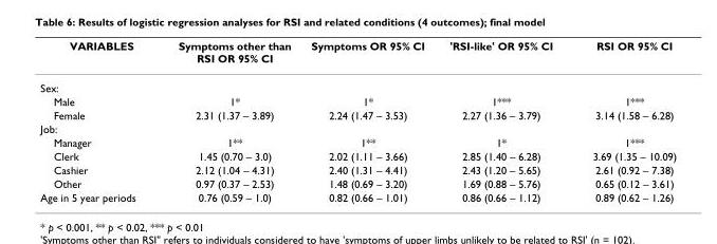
<table><thead><tr><td>VARIABLES</td><td>Symptoms other than RSI OR 95% CI</td><td>Symptoms OR 95% CI</td><td>&#x27;RSI-like&#x27; OR 95% CI</td><td>RSI OR 95% CI</td></tr></thead><tbody><tr><td colspan="5">Sex:</td></tr><tr><td>Male</td><td>1*</td><td>1*</td><td>1***</td><td>1***</td></tr><tr><td>Female</td><td>2.31 (1.37 – 3.89)</td><td>2.24 (1.47 – 3.53)</td><td>2.27 (1.36 – 3.79)</td><td>3.14 (1.58 – 6.28)</td></tr><tr><td colspan="5">Job:</td></tr><tr><td>Manager</td><td>1**</td><td>1**</td><td>1*</td><td>1***</td></tr><tr><td>Clerk</td><td>1.45 (0.70 – 3.0)</td><td>2.02 (1.11 – 3.66)</td><td>2.85 (1.40 – 6.28)</td><td>3.69 (1.35 – 10.09)</td></tr><tr><td>Cashier</td><td>2.12 (1.04 – 4.31)</td><td>2.40 (1.31 – 4.41)</td><td>2.43 (1.20 – 5.65)</td><td>2.61 (0.92 – 7.38)</td></tr><tr><td>Other</td><td>0.97 (0.37 – 2.53)</td><td>1.48 (0.69 – 3.20)</td><td>1.69 (0.88 – 5.76)</td><td>0.65 (0.12 – 3.61)</td></tr><tr><td>Age in 5 year periods</td><td>0.76 (0.59 – 1.0)</td><td>0.82 (0.66 – 1.01)</td><td>0.86 (0.66 – 1.12)</td><td>0.89 (0.62 – 1.26)</td></tr></tbody></table>